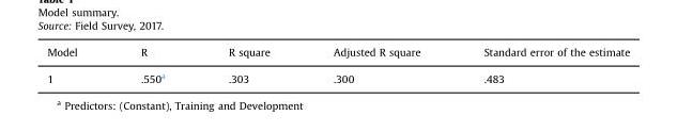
<table><thead><tr><td>Model</td><td>R</td><td>R square</td><td>Adjusted R square</td><td>Standard error of the estimate</td></tr></thead><tbody><tr><td>1</td><td>.550<sup>a</sup></td><td>.303</td><td>.300</td><td>.483</td></tr></tbody></table>